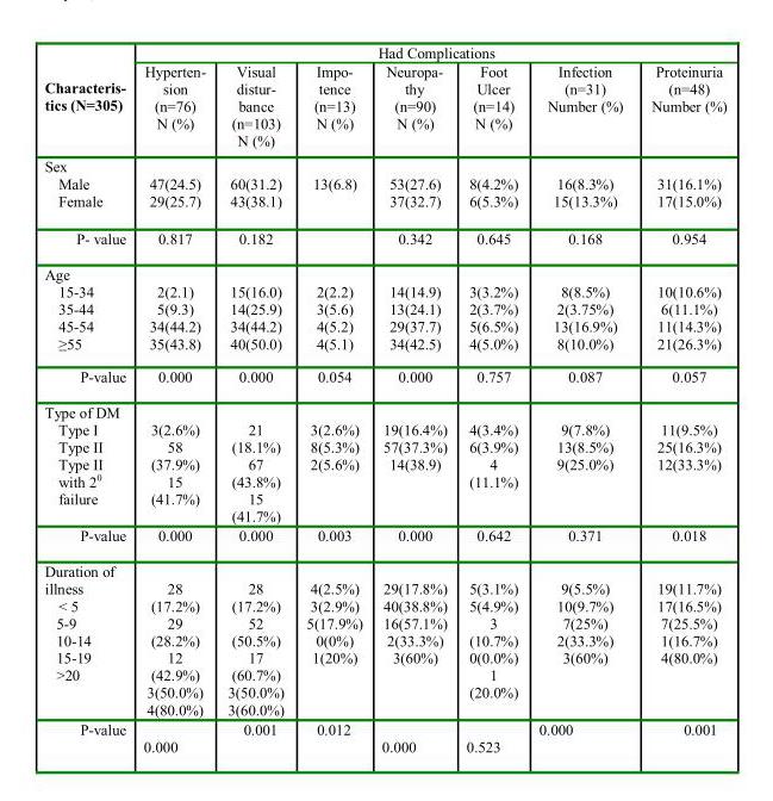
<table><thead><tr><td rowspan="2">Characteris- tics (N=305)</td><td colspan="7">Had Complications</td></tr><tr><td>Hyperten- sion (n=76) N (%)</td><td>Visual distur- bance (n=103) N (%)</td><td>Impo- tence (n=13) N (%)</td><td>Neuropa- thy (n=90) N (%)</td><td>Foot Ulcer (n=14) N (%)</td><td>Infection (n=31) Number (%)</td><td>Proteinuria (n=48) Number (%)</td></tr></thead><tbody><tr><td>Sex Male Female</td><td>47(24.5) 29(25.7)</td><td>60(31.2) 43(38.1)</td><td>13(6.8)</td><td>53(27.6) 37(32.7)</td><td>8(4.2%) 6(5.3%)</td><td>16(8.3%) 15(13.3%)</td><td>31(16.1%) 17(15.0%)</td></tr><tr><td>P- value</td><td>0.817</td><td>0.182</td><td></td><td>0.342</td><td>0.645</td><td>0.168</td><td>0.954</td></tr><tr><td>Age 15-34 35-44 45-54 ≥55</td><td>2(2.1) 5(9.3) 34(44.2) 35(43.8)</td><td>15(16.0) 14(25.9) 34(44.2) 40(50.0)</td><td>2(2.2) 3(5.6) 4(5.2) 4(5.1)</td><td>14(14.9) 13(24.1) 29(37.7) 34(42.5)</td><td>3(3.2%) 2(3.7%) 5(6.5%) 4(5.0%)</td><td>8(8.5%) 2(3.75%) 13(16.9%) 8(10.0%)</td><td>10(10.6%) 6(11.1%) 11(14.3%) 21(26.3%)</td></tr><tr><td>P-value</td><td>0.000</td><td>0.000</td><td>0.054</td><td>0.000</td><td>0.757</td><td>0.087</td><td>0.057</td></tr><tr><td>Type of DM Type I Type II Type II with 2<sup>0</sup> failure</td><td>3(2.6%) 58 (37.9%) 15 (41.7%)</td><td>21 (18.1%) 67 (43.8%) 15 (41.7%)</td><td>3(2.6%) 8(5.3%) 2(5.6%)</td><td>19(16.4%) 57(37.3%) 14(38.9)</td><td>4(3.4%) 6(3.9%) 4 (11.1%)</td><td>9(7.8%) 13(8.5%) 9(25.0%)</td><td>11(9.5%) 25(16.3%) 12(33.3%)</td></tr><tr><td>P-value</td><td>0.000</td><td>0.000</td><td>0.003</td><td>0.000</td><td>0.642</td><td>0.371</td><td>0.018</td></tr><tr><td>Duration of illness &lt; 5 5-9 10-14 15-19 &gt;20</td><td>28 (17.2%) 29 (28.2%) 12 (42.9%) 3(50.0%) 4(80.0%)</td><td>28 (17.2%) 52 (50.5%) 17 (60.7%) 3(50.0%) 3(60.0%)</td><td>4(2.5%) 3(2.9%) 5(17.9%) 0(0%) 1(20%)</td><td>29(17.8%) 40(38.8%) 16(57.1%) 2(33.3%) 3(60%)</td><td>5(3.1%) 5(4.9%) 3 (10.7%) 0(0.0%) 1 (20.0%)</td><td>9(5.5%) 10(9.7%) 7(25%) 2(33.3%) 3(60%)</td><td>19(11.7%) 17(16.5%) 7(25.5%) 1(16.7%) 4(80.0%)</td></tr><tr><td>P-value</td><td>0.000</td><td>0.001</td><td>0.012</td><td>0.000</td><td>0.523</td><td>0.000</td><td>0.001</td></tr></tbody></table>